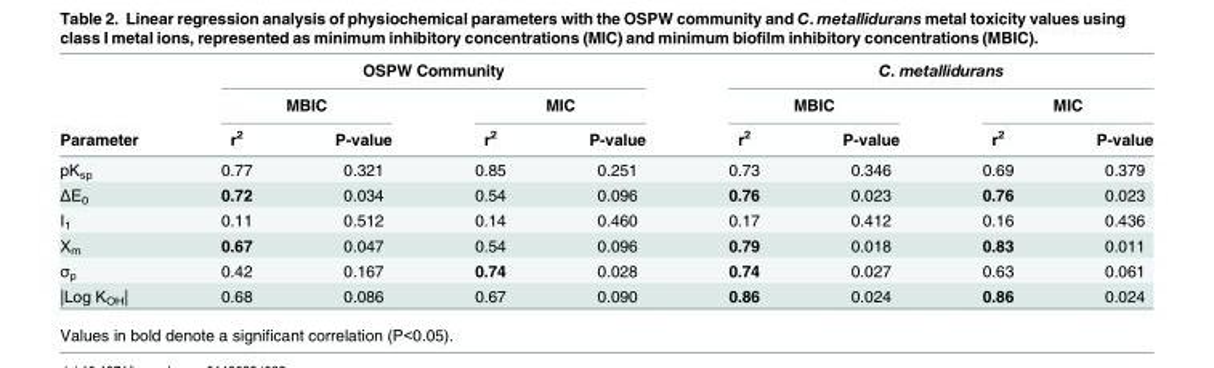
<table><thead><tr><td rowspan="3">Parameter</td><td colspan="4">OSPW Community</td><td colspan="4">C. metallidurans</td></tr><tr><td colspan="2">MBIC</td><td colspan="2">MIC</td><td colspan="2">MBIC</td><td colspan="2">MIC</td></tr><tr><td>r<sup>2</sup></td><td>P-value</td><td>r<sup>2</sup></td><td>P-value</td><td>r<sup>2</sup></td><td>P-value</td><td>r<sup>2</sup></td><td>P-value</td></tr></thead><tbody><tr><td>pK<sub>sp</sub></td><td>0.77</td><td>0.321</td><td>0.85</td><td>0.251</td><td>0.73</td><td>0.346</td><td>0.69</td><td>0.379</td></tr><tr><td>ΔE<sub>0</sub></td><td>0.72</td><td>0.034</td><td>0.54</td><td>0.096</td><td>0.76</td><td>0.023</td><td>0.76</td><td>0.023</td></tr><tr><td>I<sub>1</sub></td><td>0.11</td><td>0.512</td><td>0.14</td><td>0.460</td><td>0.17</td><td>0.412</td><td>0.16</td><td>0.436</td></tr><tr><td>Χ<sub>m</sub></td><td>0.67</td><td>0.047</td><td>0.54</td><td>0.096</td><td>0.79</td><td>0.018</td><td>0.83</td><td>0.011</td></tr><tr><td>σ<sub>p</sub></td><td>0.42</td><td>0.167</td><td>0.74</td><td>0.028</td><td>0.74</td><td>0.027</td><td>0.63</td><td>0.061</td></tr><tr><td>|Log K<sub>OH</sub>|</td><td>0.68</td><td>0.086</td><td>0.67</td><td>0.090</td><td>0.86</td><td>0.024</td><td>0.86</td><td>0.024</td></tr></tbody></table>